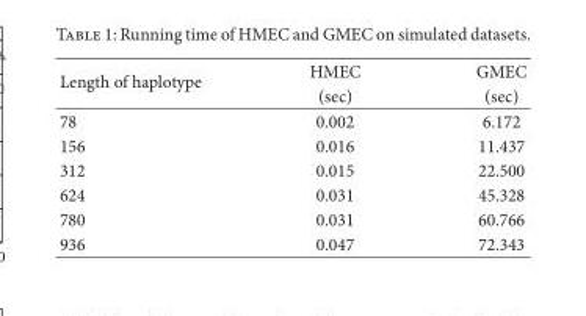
<table><thead><tr><td rowspan="2">Length of haplotype</td><td rowspan="2">HMEC (sec)</td><td rowspan="2">GMEC (sec)</td></tr><tr></tr></thead><tbody><tr><td>78</td><td>0.002</td><td>6.172</td></tr><tr><td>156</td><td>0.016</td><td>11.437</td></tr><tr><td>312</td><td>0.015</td><td>22.500</td></tr><tr><td>624</td><td>0.031</td><td>45.328</td></tr><tr><td>780</td><td>0.031</td><td>60.766</td></tr><tr><td>936</td><td>0.047</td><td>72.343</td></tr></tbody></table>